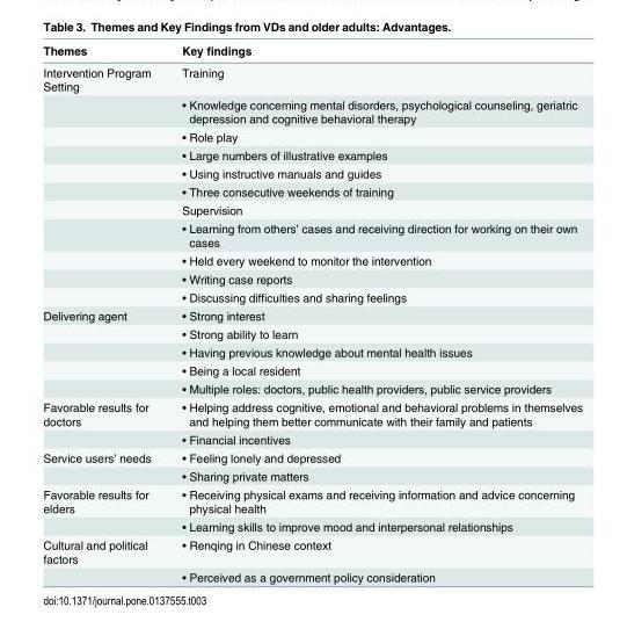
<table><thead><tr><td>Themes</td><td>Key findings</td></tr></thead><tbody><tr><td rowspan="11">Intervention Program Setting</td><td>Training</td></tr><tr><td>• Knowledge concerning mental disorders, psychological counseling, geriatric depression and cognitive behavioral therapy</td></tr><tr><td>• Role play</td></tr><tr><td>• Large numbers of illustrative examples</td></tr><tr><td>• Using instructive manuals and guides</td></tr><tr><td>• Three consecutive weekends of training</td></tr><tr><td>Supervision</td></tr><tr><td>• Learning from others’ cases and receiving direction for working on their own cases</td></tr><tr><td>• Held every weekend to monitor the intervention</td></tr><tr><td>• Writing case reports</td></tr><tr><td>• Discussing difficulties and sharing feelings</td></tr><tr><td rowspan="5">Delivering agent</td><td>• Strong interest</td></tr><tr><td>• Strong ability to learn</td></tr><tr><td>• Having previous knowledge about mental health issues</td></tr><tr><td>• Being a local resident</td></tr><tr><td>• Multiple roles: doctors, public health providers, public service providers</td></tr><tr><td rowspan="2">Favorable results for doctors</td><td>• Helping address cognitive, emotional and behavioral problems in themselves and helping them better communicate with their family and patients</td></tr><tr><td>• Financial incentives</td></tr><tr><td rowspan="2">Service users’ needs</td><td>• Feeling lonely and depressed</td></tr><tr><td>• Sharing private matters</td></tr><tr><td rowspan="2">Favorable results for elders</td><td>• Receiving physical exams and receiving information and advice concerning physical health</td></tr><tr><td>• Learning skills to improve mood and interpersonal relationships</td></tr><tr><td rowspan="2">Cultural and political factors</td><td>• Renqing in Chinese context</td></tr><tr><td>• Perceived as a government policy consideration</td></tr></tbody></table>